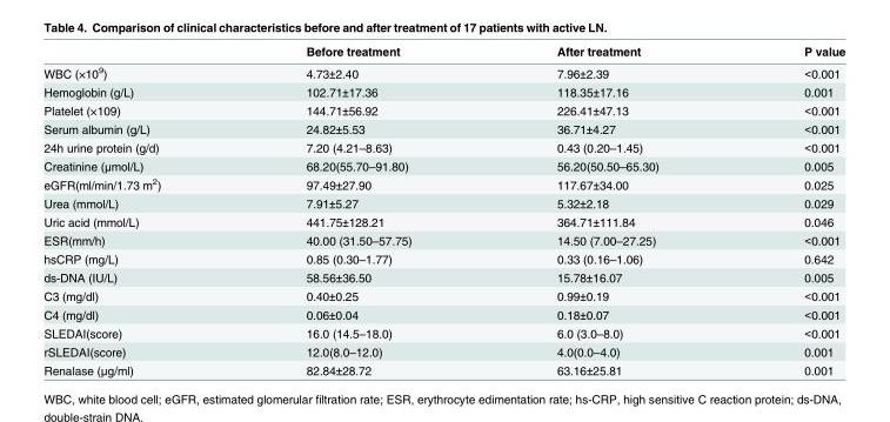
<table><thead><tr><td></td><td>Before treatment</td><td>After treatment</td><td>P value</td></tr></thead><tbody><tr><td>WBC (×10<sup>9</sup>)</td><td>4.73±2.40</td><td>7.96±2.39</td><td>&lt;0.001</td></tr><tr><td>Hemoglobin (g/L)</td><td>102.71±17.36</td><td>118.35±17.16</td><td>0.001</td></tr><tr><td>Platelet (×109)</td><td>144.71±56.92</td><td>226.41±47.13</td><td>&lt;0.001</td></tr><tr><td>Serum albumin (g/L)</td><td>24.82±5.53</td><td>36.71±4.27</td><td>&lt;0.001</td></tr><tr><td>24h urine protein (g/d)</td><td>7.20 (4.21–8.63)</td><td>0.43 (0.20–1.45)</td><td>&lt;0.001</td></tr><tr><td>Creatinine (μmol/L)</td><td>68.20(55.70–91.80)</td><td>56.20(50.50–65.30)</td><td>0.005</td></tr><tr><td>eGFR(ml/min/1.73 m<sup>2</sup>)</td><td>97.49±27.90</td><td>117.67±34.00</td><td>0.025</td></tr><tr><td>Urea (mmol/L)</td><td>7.91±5.27</td><td>5.32±2.18</td><td>0.029</td></tr><tr><td>Uric acid (mmol/L)</td><td>441.75±128.21</td><td>364.71±111.84</td><td>0.046</td></tr><tr><td>ESR(mm/h)</td><td>40.00 (31.50–57.75)</td><td>14.50 (7.00–27.25)</td><td>&lt;0.001</td></tr><tr><td>hsCRP (mg/L)</td><td>0.85 (0.30–1.77)</td><td>0.33 (0.16–1.06)</td><td>0.642</td></tr><tr><td>ds-DNA (IU/L)</td><td>58.56±36.50</td><td>15.78±16.07</td><td>0.005</td></tr><tr><td>C3 (mg/dl)</td><td>0.40±0.25</td><td>0.99±0.19</td><td>&lt;0.001</td></tr><tr><td>C4 (mg/dl)</td><td>0.06±0.04</td><td>0.18±0.07</td><td>&lt;0.001</td></tr><tr><td>SLEDAI(score)</td><td>16.0 (14.5–18.0)</td><td>6.0 (3.0–8.0)</td><td>&lt;0.001</td></tr><tr><td>rSLEDAI(score)</td><td>12.0(8.0–12.0)</td><td>4.0(0.0–4.0)</td><td>0.001</td></tr><tr><td>Renalase (μg/ml)</td><td>82.84±28.72</td><td>63.16±25.81</td><td>0.001</td></tr></tbody></table>